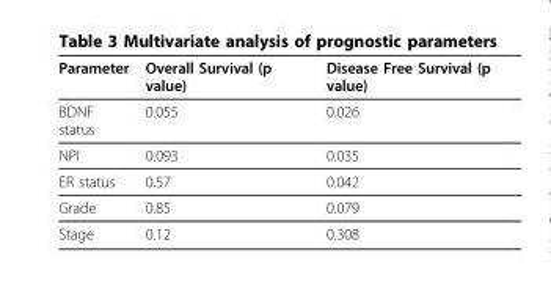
<table><thead><tr><td>Parameter</td><td>Overall Survival (p value)</td><td>Disease Free Survival (p value)</td></tr></thead><tbody><tr><td>BDNF status</td><td>0.055</td><td>0.026</td></tr><tr><td>NPI</td><td>0.093</td><td>0.035</td></tr><tr><td>ER status</td><td>0.57</td><td>0.042</td></tr><tr><td>Grade</td><td>0.85</td><td>0.079</td></tr><tr><td>Stage</td><td>0.12</td><td>0.308</td></tr></tbody></table>